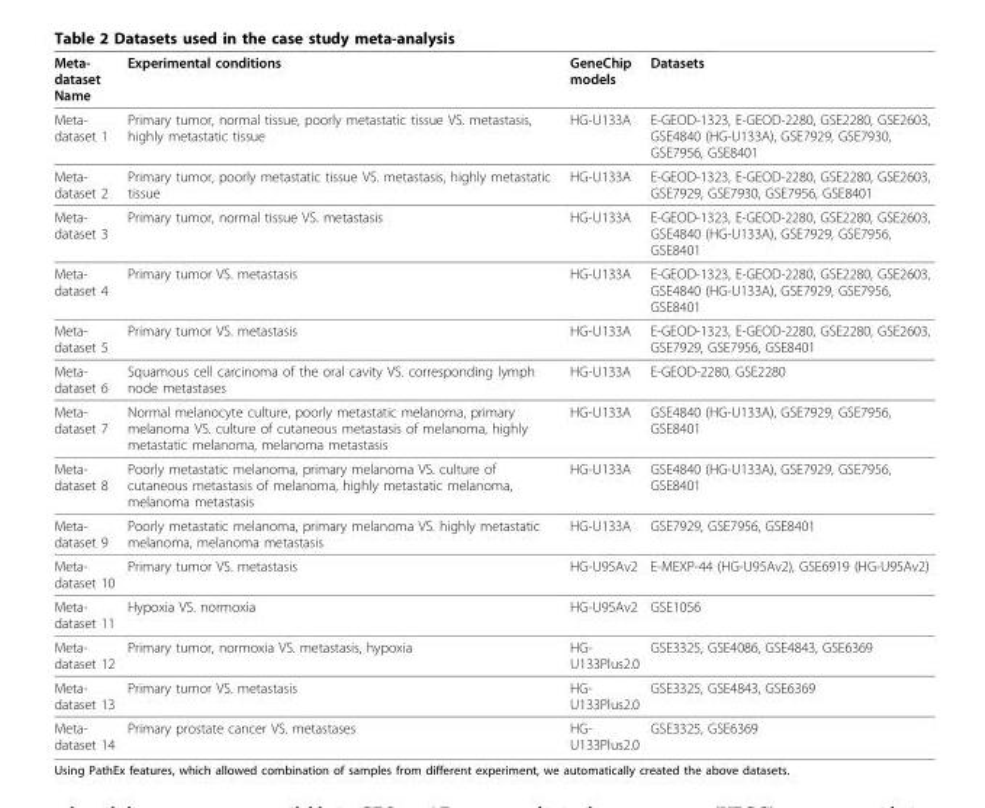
<table><thead><tr><td>Meta- dataset Name</td><td>Experimental conditions</td><td>GeneChip models</td><td>Datasets</td></tr></thead><tbody><tr><td>Meta- dataset 1</td><td>Primary tumor, normal tissue, poorly metastatic tissue VS. metastasis, highly metastatic tissue</td><td>HG-U133A</td><td>E-GEOD-1323, E-GEOD-2280, GSE2280, GSE2603, GSE4840 (HG-U133A), GSE7929, GSE7930, GSE7956, GSE8401</td></tr><tr><td>Meta- dataset 2</td><td>Primary tumor, poorly metastatic tissue VS. metastasis, highly metastatic tissue</td><td>HG-U133A</td><td>E-GEOD-1323, E-GEOD-2280, GSE2280, GSE2603, GSE7929, GSE7930, GSE7956, GSE8401</td></tr><tr><td>Meta- dataset 3</td><td>Primary tumor, normal tissue VS. metastasis</td><td>HG-U133A</td><td>E-GEOD-1323, E-GEOD-2280, GSE2280, GSE2603, GSE4840 (HG-U133A), GSE7929, GSE7956, GSE8401</td></tr><tr><td>Meta- dataset 4</td><td>Primary tumor VS. metastasis</td><td>HG-U133A</td><td>E-GEOD-1323, E-GEOD-2280, GSE2280, GSE2603, GSE4840 (HG-U133A), GSE7929, GSE7956, GSE8401</td></tr><tr><td>Meta- dataset 5</td><td>Primary tumor VS. metastasis</td><td>HG-U133A</td><td>E-GEOD-1323, E-GEOD-2280, GSE2280, GSE2603, GSE7929, GSE7956, GSE8401</td></tr><tr><td>Meta- dataset 6</td><td>Squamous cell carcinoma of the oral cavity VS. corresponding lymph node metastases</td><td>HG-U133A</td><td>E-GEOD-2280, GSE2280</td></tr><tr><td>Meta- dataset 7</td><td>Normal melanocyte culture, poorly metastatic melanoma, primary melanoma VS. culture of cutaneous metastasis of melanoma, highly metastatic melanoma, melanoma metastasis</td><td>HG-U133A</td><td>GSE4840 (HG-U133A), GSE7929, GSE7956, GSE8401</td></tr><tr><td>Meta- dataset 8</td><td>Poorly metastatic melanoma, primary melanoma VS. culture of cutaneous metastasis of melanoma, highly metastatic melanoma, melanoma metastasis</td><td>HG-U133A</td><td>GSE4840 (HG-U133A), GSE7929, GSE7956, GSE8401</td></tr><tr><td>Meta- dataset 9</td><td>Poorly metastatic melanoma, primary melanoma VS. highly metastatic melanoma, melanoma metastasis</td><td>HG-U133A</td><td>GSE7929, GSE7956, GSE8401</td></tr><tr><td>Meta- dataset 10</td><td>Primary tumor VS. metastasis</td><td>HG-U95Av2</td><td>E-MEXP-44 (HG-U95Av2), GSE6919 (HG-U95Av2)</td></tr><tr><td>Meta- dataset 11</td><td>Hypoxia VS. normoxia</td><td>HG-U95Av2</td><td>GSE1056</td></tr><tr><td>Meta- dataset 12</td><td>Primary tumor, normoxia VS. metastasis, hypoxia</td><td>HG- U133Plus2.0</td><td>GSE3325, GSE4086, GSE4843, GSE6369</td></tr><tr><td>Meta- dataset 13</td><td>Primary tumor VS. metastasis</td><td>HG- U133Plus2.0</td><td>GSE3325, GSE4843, GSE6369</td></tr><tr><td>Meta- dataset 14</td><td>Primary prostate cancer VS. metastases</td><td>HG- U133Plus2.0</td><td>GSE3325, GSE6369</td></tr></tbody></table>